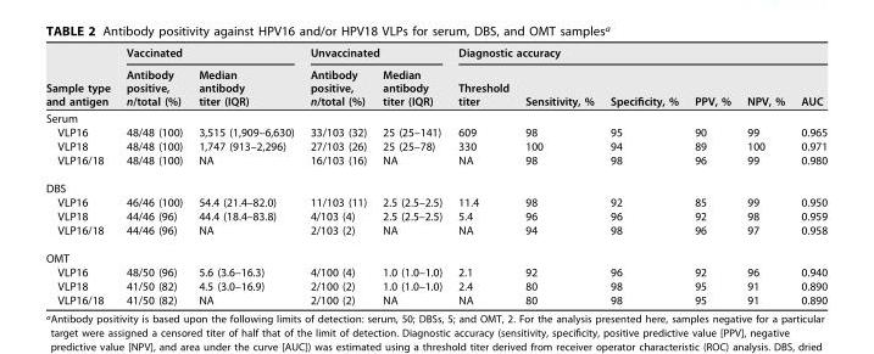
<table><thead><tr><td rowspan="2">Sample type and antigen</td><td colspan="2">Vaccinated</td><td colspan="2">Unvaccinated</td><td colspan="6">Diagnostic accuracy</td></tr><tr><td>Antibody positive, n/total (%)</td><td>Median antibody titer (IQR)</td><td>Antibody positive, n/total (%)</td><td>Median antibody titer (IQR)</td><td>Threshold titer</td><td>Sensitivity, %</td><td>Specificity, %</td><td>PPV, %</td><td>NPV, %</td><td>AUC</td></tr></thead><tbody><tr><td colspan="11">Serum</td></tr><tr><td>VLP16</td><td>48/48 (100)</td><td>3,515 (1,909–6,630)</td><td>33/103 (32)</td><td>25 (25–141)</td><td>609</td><td>98</td><td>95</td><td>90</td><td>99</td><td>0.965</td></tr><tr><td>VLP18</td><td>48/48 (100)</td><td>1,747 (913–2,296)</td><td>27/103 (26)</td><td>25 (25–78)</td><td>330</td><td>100</td><td>94</td><td>89</td><td>100</td><td>0.971</td></tr><tr><td>VLP16/18</td><td>48/48 (100)</td><td>NA</td><td>16/103 (16)</td><td>NA</td><td>NA</td><td>98</td><td>98</td><td>96</td><td>99</td><td>0.980</td></tr><tr><td colspan="11">DBS</td></tr><tr><td>VLP16</td><td>46/46 (100)</td><td>54.4 (21.4–82.0)</td><td>11/103 (11)</td><td>2.5 (2.5–2.5)</td><td>11.4</td><td>98</td><td>92</td><td>85</td><td>99</td><td>0.950</td></tr><tr><td>VLP18</td><td>44/46 (96)</td><td>44.4 (18.4–83.8)</td><td>4/103 (4)</td><td>2.5 (2.5–2.5)</td><td>5.4</td><td>96</td><td>96</td><td>92</td><td>98</td><td>0.959</td></tr><tr><td>VLP16/18</td><td>44/46 (96)</td><td>NA</td><td>2/103 (2)</td><td>NA</td><td>NA</td><td>94</td><td>98</td><td>96</td><td>97</td><td>0.958</td></tr><tr><td colspan="11">OMT</td></tr><tr><td>VLP16</td><td>48/50 (96)</td><td>5.6 (3.6–16.3)</td><td>4/100 (4)</td><td>1.0 (1.0–1.0)</td><td>2.1</td><td>92</td><td>96</td><td>92</td><td>96</td><td>0.940</td></tr><tr><td>VLP18</td><td>41/50 (82)</td><td>4.5 (3.0–16.9)</td><td>2/100 (2)</td><td>1.0 (1.0–1.0)</td><td>2.4</td><td>80</td><td>98</td><td>95</td><td>91</td><td>0.890</td></tr><tr><td>VLP16/18</td><td>41/50 (82)</td><td>NA</td><td>2/100 (2)</td><td>NA</td><td>NA</td><td>80</td><td>98</td><td>95</td><td>91</td><td>0.890</td></tr></tbody></table>